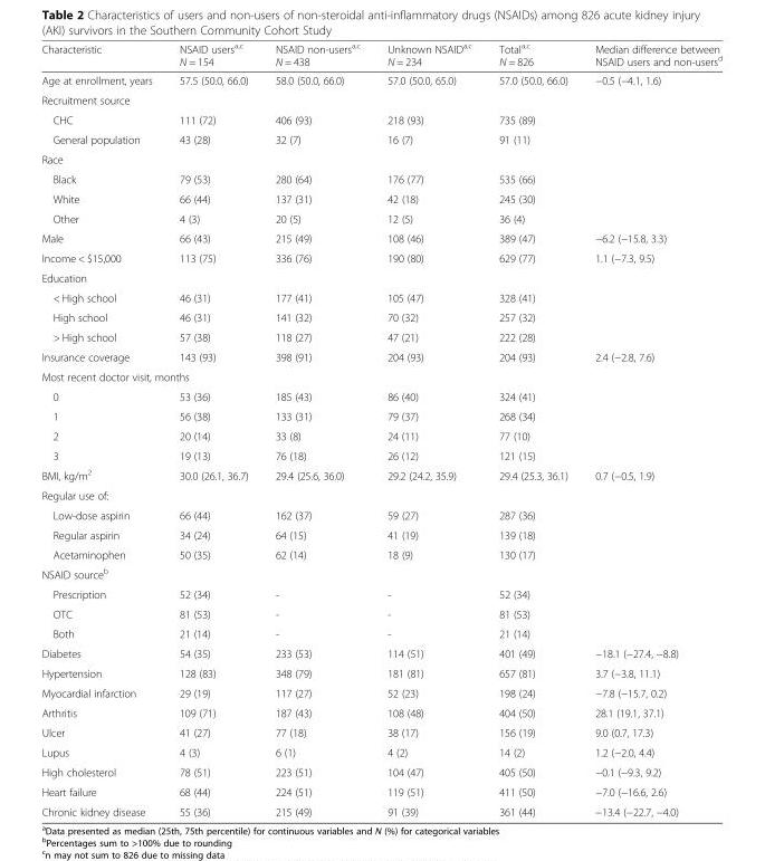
<table><thead><tr><td>Characteristic</td><td>NSAID users<sup>a,c</sup> N = 154</td><td>NSAID non-users<sup>a,c</sup> N = 438</td><td>Unknown NSAID<sup>a,c</sup> N = 234</td><td>Total<sup>a,c</sup> N = 826</td><td>Median difference between NSAID users and non-users<sup>d</sup></td></tr></thead><tbody><tr><td>Age at enrollment, years</td><td>57.5 (50.0, 66.0)</td><td>58.0 (50.0, 66.0)</td><td>57.0 (50.0, 65.0)</td><td>57.0 (50.0, 66.0)</td><td>−0.5 (−4.1, 1.6)</td></tr><tr><td colspan="6">Recruitment source</td></tr><tr><td>CHC</td><td>111 (72)</td><td>406 (93)</td><td>218 (93)</td><td>735 (89)</td><td></td></tr><tr><td>General population</td><td>43 (28)</td><td>32 (7)</td><td>16 (7)</td><td>91 (11)</td><td></td></tr><tr><td colspan="6">Race</td></tr><tr><td>Black</td><td>79 (53)</td><td>280 (64)</td><td>176 (77)</td><td>535 (66)</td><td></td></tr><tr><td>White</td><td>66 (44)</td><td>137 (31)</td><td>42 (18)</td><td>245 (30)</td><td></td></tr><tr><td>Other</td><td>4 (3)</td><td>20 (5)</td><td>12 (5)</td><td>36 (4)</td><td></td></tr><tr><td>Male</td><td>66 (43)</td><td>215 (49)</td><td>108 (46)</td><td>389 (47)</td><td>−6.2 (−15.8, 3.3)</td></tr><tr><td>Income &lt; $15,000</td><td>113 (75)</td><td>336 (76)</td><td>190 (80)</td><td>629 (77)</td><td>1.1 (−7.3, 9.5)</td></tr><tr><td colspan="6">Education</td></tr><tr><td>&lt; High school</td><td>46 (31)</td><td>177 (41)</td><td>105 (47)</td><td>328 (41)</td><td></td></tr><tr><td>High school</td><td>46 (31)</td><td>141 (32)</td><td>70 (32)</td><td>257 (32)</td><td></td></tr><tr><td>&gt; High school</td><td>57 (38)</td><td>118 (27)</td><td>47 (21)</td><td>222 (28)</td><td></td></tr><tr><td>Insurance coverage</td><td>143 (93)</td><td>398 (91)</td><td>204 (93)</td><td>204 (93)</td><td>2.4 (−2.8, 7.6)</td></tr><tr><td colspan="6">Most recent doctor visit, months</td></tr><tr><td>0</td><td>53 (36)</td><td>185 (43)</td><td>86 (40)</td><td>324 (41)</td><td></td></tr><tr><td>1</td><td>56 (38)</td><td>133 (31)</td><td>79 (37)</td><td>268 (34)</td><td></td></tr><tr><td>2</td><td>20 (14)</td><td>33 (8)</td><td>24 (11)</td><td>77 (10)</td><td></td></tr><tr><td>3</td><td>19 (13)</td><td>76 (18)</td><td>26 (12)</td><td>121 (15)</td><td></td></tr><tr><td>BMI, kg/m<sup>2</sup></td><td>30.0 (26.1, 36.7)</td><td>29.4 (25.6, 36.0)</td><td>29.2 (24.2, 35.9)</td><td>29.4 (25.3, 36.1)</td><td>0.7 (−0.5, 1.9)</td></tr><tr><td colspan="6">Regular use of:</td></tr><tr><td>Low-dose aspirin</td><td>66 (44)</td><td>162 (37)</td><td>59 (27)</td><td>287 (36)</td><td></td></tr><tr><td>Regular aspirin</td><td>34 (24)</td><td>64 (15)</td><td>41 (19)</td><td>139 (18)</td><td></td></tr><tr><td>Acetaminophen</td><td>50 (35)</td><td>62 (14)</td><td>18 (9)</td><td>130 (17)</td><td></td></tr><tr><td colspan="6">NSAID source<sup>b</sup></td></tr><tr><td>Prescription</td><td>52 (34)</td><td>-</td><td>-</td><td>52 (34)</td><td></td></tr><tr><td>OTC</td><td>81 (53)</td><td>-</td><td>-</td><td>81 (53)</td><td></td></tr><tr><td>Both</td><td>21 (14)</td><td>-</td><td>-</td><td>21 (14)</td><td></td></tr><tr><td>Diabetes</td><td>54 (35)</td><td>233 (53)</td><td>114 (51)</td><td>401 (49)</td><td>−18.1 (−27.4, −8.8)</td></tr><tr><td>Hypertension</td><td>128 (83)</td><td>348 (79)</td><td>181 (81)</td><td>657 (81)</td><td>3.7 (−3.8, 11.1)</td></tr><tr><td>Myocardial infarction</td><td>29 (19)</td><td>117 (27)</td><td>52 (23)</td><td>198 (24)</td><td>−7.8 (−15.7, 0.2)</td></tr><tr><td>Arthritis</td><td>109 (71)</td><td>187 (43)</td><td>108 (48)</td><td>404 (50)</td><td>28.1 (19.1, 37.1)</td></tr><tr><td>Ulcer</td><td>41 (27)</td><td>77 (18)</td><td>38 (17)</td><td>156 (19)</td><td>9.0 (0.7, 17.3)</td></tr><tr><td>Lupus</td><td>4 (3)</td><td>6 (1)</td><td>4 (2)</td><td>14 (2)</td><td>1.2 (−2.0, 4.4)</td></tr><tr><td>High cholesterol</td><td>78 (51)</td><td>223 (51)</td><td>104 (47)</td><td>405 (50)</td><td>−0.1 (−9.3, 9.2)</td></tr><tr><td>Heart failure</td><td>68 (44)</td><td>224 (51)</td><td>119 (51)</td><td>411 (50)</td><td>−7.0 (−16.6, 2.6)</td></tr><tr><td>Chronic kidney disease</td><td>55 (36)</td><td>215 (49)</td><td>91 (39)</td><td>361 (44)</td><td>−13.4 (−22.7, −4.0)</td></tr></tbody></table>